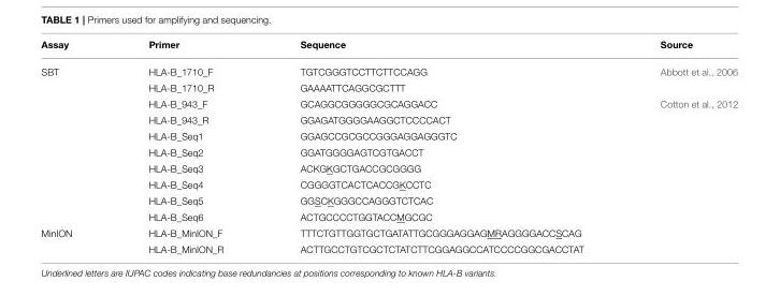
<table><thead><tr><td>Assay</td><td>Primer</td><td>Sequence</td><td>Source</td></tr></thead><tbody><tr><td rowspan="10">SBT</td><td>HLA-B_1710_F</td><td>TGTCGGGTCCTTCTTCCAGG</td><td>Abbott et al., 2006</td></tr><tr><td>HLA-B_1710_R</td><td>GAAAATTCAGGCGCTTT</td><td></td></tr><tr><td>HLA-B_943_F</td><td>GCAGGCGGGGGCGCAGGACC</td><td>Cotton et al., 2012</td></tr><tr><td>HLA-B_943_R</td><td>GGAGATGGGGAAGGCTCCCCACT</td><td></td></tr><tr><td>HLA-B_Seq1</td><td>GGAGCCGCGCCGGGAGGAGGGTC</td><td></td></tr><tr><td>HLA-B_Seq2</td><td>GGATGGGGAGTCGTGACCT</td><td></td></tr><tr><td>HLA-B_Seq3</td><td>ACKGKGCTGACCGCGGGG</td><td></td></tr><tr><td>HLA-B_Seq4</td><td>CGGGGTCACTCACCGKCCTC</td><td></td></tr><tr><td>HLA-B_Seq5</td><td>GGSCKGGGCCAGGGTCTCAC</td><td></td></tr><tr><td>HLA-B_Seq6</td><td>ACTGCCCCTGGTACCMGCGC</td><td></td></tr><tr><td rowspan="2">MinION</td><td>HLA-B_MinION_F</td><td>TTTCTGTTGGTGCTGATATTGCGGGAGGAGMRAGGGGACCSCAG</td><td></td></tr><tr><td>HLA-B_MinION_R</td><td>ACTTGCCTGTCGCTCTATCTTCGGAGGCCATCCCCGGCGACCTAT</td><td></td></tr></tbody></table>